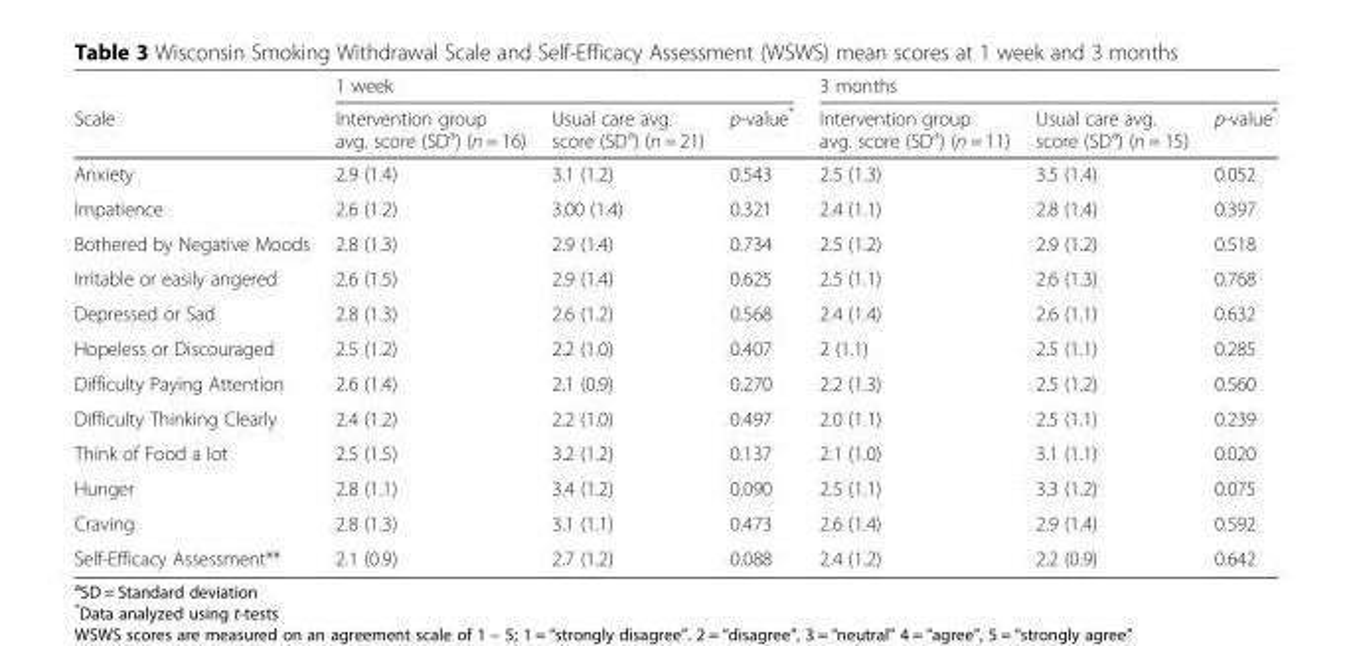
<table><thead><tr><td rowspan="2">Scale</td><td colspan="3">1 week</td><td colspan="3">3 months</td></tr><tr><td>Intervention group avg. score (SD<sup>a</sup>) (n = 16)</td><td>Usual care avg. score (SD<sup>a</sup>) (n = 21)</td><td>p-value*</td><td>Intervention group avg. score (SD<sup>a</sup>) (n = 11)</td><td>Usual care avg. score (SD<sup>a</sup>) (n = 15)</td><td>p-value*</td></tr></thead><tbody><tr><td>Anxiety</td><td>2.9 (1.4)</td><td>3.1 (1.2)</td><td>0.543</td><td>2.5 (1.3)</td><td>3.5 (1.4)</td><td>0.052</td></tr><tr><td>Impatience</td><td>2.6 (1.2)</td><td>3.00 (1.4)</td><td>0.321</td><td>2.4 (1.1)</td><td>2.8 (1.4)</td><td>0.397</td></tr><tr><td>Bothered by Negative Moods</td><td>2.8 (1.3)</td><td>2.9 (1.4)</td><td>0.734</td><td>2.5 (1.2)</td><td>2.9 (1.2)</td><td>0.518</td></tr><tr><td>Irritable or easily angered</td><td>2.6 (1.5)</td><td>2.9 (1.4)</td><td>0.625</td><td>2.5 (1.1)</td><td>2.6 (1.3)</td><td>0.768</td></tr><tr><td>Depressed or Sad</td><td>2.8 (1.3)</td><td>2.6 (1.2)</td><td>0.568</td><td>2.4 (1.4)</td><td>2.6 (1.1)</td><td>0.632</td></tr><tr><td>Hopeless or Discouraged</td><td>2.5 (1.2)</td><td>2.2 (1.0)</td><td>0.407</td><td>2 (1.1)</td><td>2.5 (1.1)</td><td>0.285</td></tr><tr><td>Difficulty Paying Attention</td><td>2.6 (1.4)</td><td>2.1 (0.9)</td><td>0.270</td><td>2.2 (1.3)</td><td>2.5 (1.2)</td><td>0.560</td></tr><tr><td>Difficulty Thinking Clearly</td><td>2.4 (1.2)</td><td>2.2 (1.0)</td><td>0.497</td><td>2.0 (1.1)</td><td>2.5 (1.1)</td><td>0.239</td></tr><tr><td>Think of Food a lot</td><td>2.5 (1.5)</td><td>3.2 (1.2)</td><td>0.137</td><td>2.1 (1.0)</td><td>3.1 (1.1)</td><td>0.020</td></tr><tr><td>Hunger</td><td>2.8 (1.1)</td><td>3.4 (1.2)</td><td>0.090</td><td>2.5 (1.1)</td><td>3.3 (1.2)</td><td>0.075</td></tr><tr><td>Craving</td><td>2.8 (1.3)</td><td>3.1 (1.1)</td><td>0.473</td><td>2.6 (1.4)</td><td>2.9 (1.4)</td><td>0.592</td></tr><tr><td>Self-Efficacy Assessment**</td><td>2.1 (0.9)</td><td>2.7 (1.2)</td><td>0.088</td><td>2.4 (1.2)</td><td>2.2 (0.9)</td><td>0.642</td></tr></tbody></table>